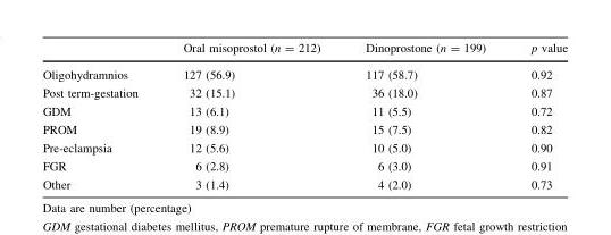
<table><thead><tr><td></td><td>Oral misoprostol (n = 212)</td><td>Dinoprostone (n = 199)</td><td>p value</td></tr></thead><tbody><tr><td>Oligohydramnios</td><td>127 (56.9)</td><td>117 (58.7)</td><td>0.92</td></tr><tr><td>Post term-gestation</td><td>32 (15.1)</td><td>36 (18.0)</td><td>0.87</td></tr><tr><td>GDM</td><td>13 (6.1)</td><td>11 (5.5)</td><td>0.72</td></tr><tr><td>PROM</td><td>19 (8.9)</td><td>15 (7.5)</td><td>0.82</td></tr><tr><td>Pre-eclampsia</td><td>12 (5.6)</td><td>10 (5.0)</td><td>0.90</td></tr><tr><td>FGR</td><td>6 (2.8)</td><td>6 (3.0)</td><td>0.91</td></tr><tr><td>Other</td><td>3 (1.4)</td><td>4 (2.0)</td><td>0.73</td></tr></tbody></table>